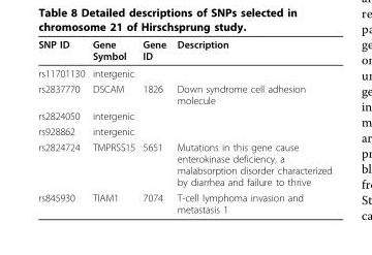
<table><thead><tr><td>SNP ID</td><td>Gene Symbol</td><td>Gene ID</td><td>Description</td></tr></thead><tbody><tr><td>rs11701130</td><td>intergenic</td><td></td><td></td></tr><tr><td>rs2837770</td><td>DSCAM</td><td>1826</td><td>Down syndrome cell adhesion molecule</td></tr><tr><td>rs2824050</td><td>intergenic</td><td></td><td></td></tr><tr><td>rs928862</td><td>intergenic</td><td></td><td></td></tr><tr><td>rs2824724</td><td>TMPRSS15</td><td>5651</td><td>Mutations in this gene cause enterokinase deficiency, a malabsorption disorder characterized by diarrhea and failure to thrive</td></tr><tr><td>rs845930</td><td>TIAM1</td><td>7074</td><td>T-cell lymphoma invasion and metastasis 1</td></tr></tbody></table>